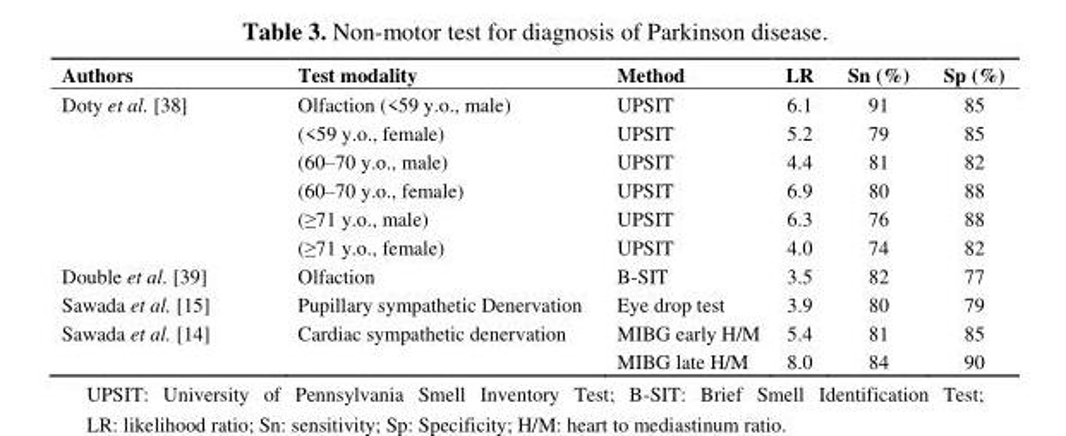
<table><thead><tr><td>Authors</td><td>Test modality</td><td>Method</td><td>LR</td><td>Sn (%)</td><td>Sp (%)</td></tr></thead><tbody><tr><td rowspan="6">Doty et al. [38]</td><td>Olfaction (&lt;59 y.o., male)</td><td>UPSIT</td><td>6.1</td><td>91</td><td>85</td></tr><tr><td>(&lt;59 y.o., female)</td><td>UPSIT</td><td>5.2</td><td>79</td><td>85</td></tr><tr><td>(60–70 y.o., male)</td><td>UPSIT</td><td>4.4</td><td>81</td><td>82</td></tr><tr><td>(60–70 y.o., female)</td><td>UPSIT</td><td>6.9</td><td>80</td><td>88</td></tr><tr><td>(≥71 y.o., male)</td><td>UPSIT</td><td>6.3</td><td>76</td><td>88</td></tr><tr><td>(≥71 y.o., female)</td><td>UPSIT</td><td>4.0</td><td>74</td><td>82</td></tr><tr><td>Double et al. [39]</td><td>Olfaction</td><td>B-SIT</td><td>3.5</td><td>82</td><td>77</td></tr><tr><td>Sawada et al. [15]</td><td>Pupillary sympathetic Denervation</td><td>Eye drop test</td><td>3.9</td><td>80</td><td>79</td></tr><tr><td rowspan="2">Sawada et al. [14]</td><td>Cardiac sympathetic denervation</td><td>MIBG early H/M</td><td>5.4</td><td>81</td><td>85</td></tr><tr><td></td><td>MIBG late H/M</td><td>8.0</td><td>84</td><td>90</td></tr></tbody></table>